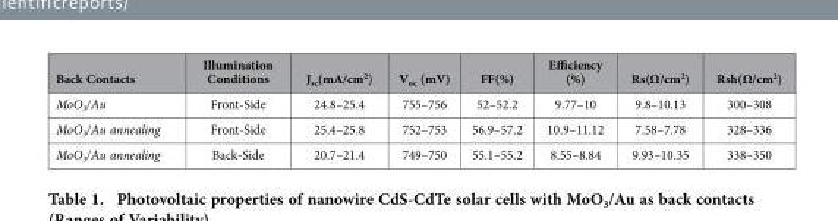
<table><thead><tr><td>Back Contacts</td><td>Illumination Conditions</td><td>J<sub>sc</sub>(mA/cm<sup>2</sup>)</td><td>V<sub>oc</sub> (mV)</td><td>FF(%)</td><td>Efficiency (%)</td><td>Rs(Ω/cm<sup>2</sup>)</td><td>Rsh(Ω/cm<sup>2</sup>)</td></tr></thead><tbody><tr><td>MoO<sub>3</sub>/Au</td><td>Front-Side</td><td>24.8–25.4</td><td>755–756</td><td>52–52.2</td><td>9.77–10</td><td>9.8–10.13</td><td>300–308</td></tr><tr><td>MoO<sub>3</sub>/Au annealing</td><td>Front-Side</td><td>25.4–25.8</td><td>752–753</td><td>56.9–57.2</td><td>10.9–11.12</td><td>7.58–7.78</td><td>328–336</td></tr><tr><td>MoO<sub>3</sub>/Au annealing</td><td>Back-Side</td><td>20.7–21.4</td><td>749–750</td><td>55.1–55.2</td><td>8.55–8.84</td><td>9.93–10.35</td><td>338–350</td></tr></tbody></table>